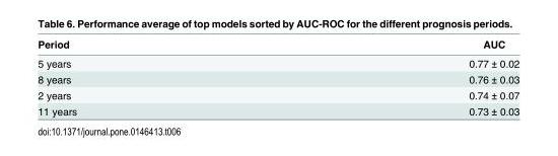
<table><thead><tr><td>Period</td><td>AUC</td></tr></thead><tbody><tr><td>5 years</td><td>0.77 ± 0.02</td></tr><tr><td>8 years</td><td>0.76 ± 0.03</td></tr><tr><td>2 years</td><td>0.74 ± 0.07</td></tr><tr><td>11 years</td><td>0.73 ± 0.03</td></tr></tbody></table>